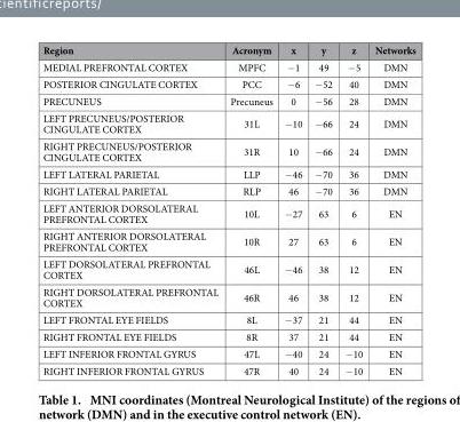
<table><thead><tr><td>Region</td><td>Acronym</td><td>x</td><td>y</td><td>z</td><td>Networks</td></tr></thead><tbody><tr><td>MEDIAL PREFRONTAL CORTEX</td><td>MPFC</td><td>− 1</td><td>49</td><td>− 5</td><td>DMN</td></tr><tr><td>POSTERIOR CINGULATE CORTEX</td><td>PCC</td><td>− 6</td><td>− 52</td><td>40</td><td>DMN</td></tr><tr><td>PRECUNEUS</td><td>Precuneus</td><td>0</td><td>− 56</td><td>28</td><td>DMN</td></tr><tr><td>LEFT PRECUNEUS/POSTERIOR CINGULATE CORTEX</td><td>31L</td><td>− 10</td><td>− 66</td><td>24</td><td>DMN</td></tr><tr><td>RIGHT PRECUNEUS/POSTERIOR CINGULATE CORTEX</td><td>31R</td><td>10</td><td>− 66</td><td>24</td><td>DMN</td></tr><tr><td>LEFT LATERAL PARIETAL</td><td>LLP</td><td>− 46</td><td>− 70</td><td>36</td><td>DMN</td></tr><tr><td>RIGHT LATERAL PARIETAL</td><td>RLP</td><td>46</td><td>− 70</td><td>36</td><td>DMN</td></tr><tr><td>LEFT ANTERIOR DORSOLATERAL PREFRONTAL CORTEX</td><td>10L</td><td>− 27</td><td>63</td><td>6</td><td>EN</td></tr><tr><td>RIGHT ANTERIOR DORSOLATERAL PREFRONTAL CORTEX</td><td>10R</td><td>27</td><td>63</td><td>6</td><td>EN</td></tr><tr><td>LEFT DORSOLATERAL PREFRONTAL CORTEX</td><td>46L</td><td>− 46</td><td>38</td><td>12</td><td>EN</td></tr><tr><td>RIGHT DORSOLATERAL PREFRONTAL CORTEX</td><td>46R</td><td>46</td><td>38</td><td>12</td><td>EN</td></tr><tr><td>LEFT FRONTAL EYE FIELDS</td><td>8L</td><td>− 37</td><td>21</td><td>44</td><td>EN</td></tr><tr><td>RIGHT FRONTAL EYE FIELDS</td><td>8R</td><td>37</td><td>21</td><td>44</td><td>EN</td></tr><tr><td>LEFT INFERIOR FRONTAL GYRUS</td><td>47L</td><td>− 40</td><td>24</td><td>− 10</td><td>EN</td></tr><tr><td>RIGHT INFERIOR FRONTAL GYRUS</td><td>47R</td><td>40</td><td>24</td><td>− 10</td><td>EN</td></tr></tbody></table>